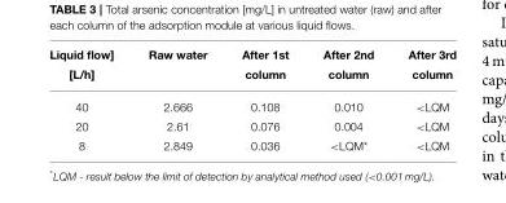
<table><thead><tr><td>Liquid flow] [L/h]</td><td>Raw water</td><td>After 1st column</td><td>After 2nd column</td><td>After 3rd column</td></tr></thead><tbody><tr><td>40</td><td>2.666</td><td>0.108</td><td>0.010</td><td>&lt;LQM</td></tr><tr><td>20</td><td>2.61</td><td>0.076</td><td>0.004</td><td>&lt;LQM</td></tr><tr><td>8</td><td>2.849</td><td>0.036</td><td>&lt;LQM*</td><td>&lt;LQM</td></tr></tbody></table>